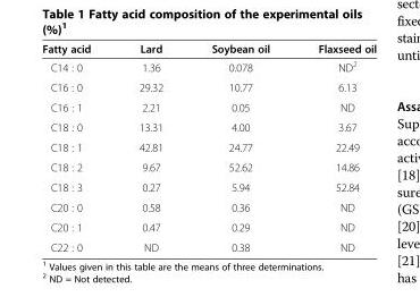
<table><thead><tr><td>Fatty acid</td><td>Lard</td><td>Soybean oil</td><td>Flaxseed oil</td></tr></thead><tbody><tr><td>C14 : 0</td><td>1.36</td><td>0.078</td><td>ND<sup>2</sup></td></tr><tr><td>C16 : 0</td><td>29.32</td><td>10.77</td><td>6.13</td></tr><tr><td>C16 : 1</td><td>2.21</td><td>0.05</td><td>ND</td></tr><tr><td>C18 : 0</td><td>13.31</td><td>4.00</td><td>3.67</td></tr><tr><td>C18 : 1</td><td>42.81</td><td>24.77</td><td>22.49</td></tr><tr><td>C18 : 2</td><td>9.67</td><td>52.62</td><td>14.86</td></tr><tr><td>C18 : 3</td><td>0.27</td><td>5.94</td><td>52.84</td></tr><tr><td>C20 : 0</td><td>0.58</td><td>0.36</td><td>ND</td></tr><tr><td>C20 : 1</td><td>0.47</td><td>0.29</td><td>ND</td></tr><tr><td>C22 : 0</td><td>ND</td><td>0.38</td><td>ND</td></tr></tbody></table>